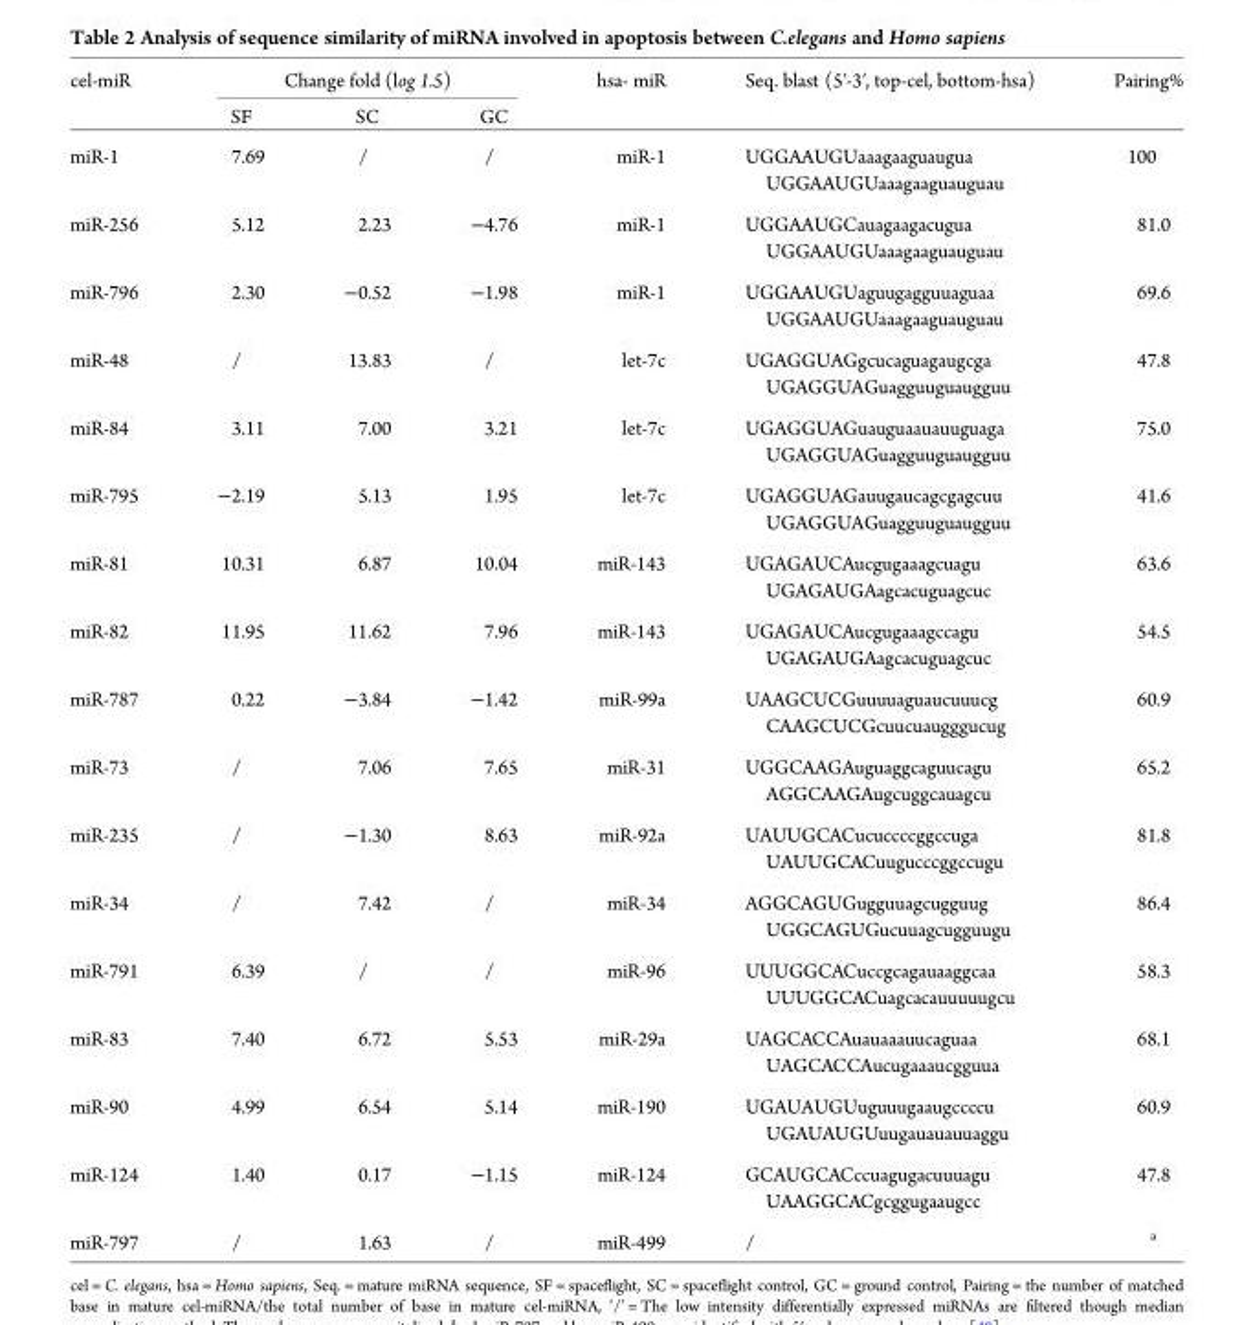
<table><thead><tr><td rowspan="2">cel-miR</td><td colspan="3">Change fold (log 1.5)</td><td rowspan="2">hsa- miR</td><td rowspan="2">Seq. blast (5′-3′, top-cel, bottom-hsa)</td><td rowspan="2">Pairing%</td></tr><tr><td>SF</td><td>SC</td><td>GC</td></tr></thead><tbody><tr><td>miR-1</td><td>7.69</td><td>/</td><td>/</td><td>miR-1</td><td>UGGAAUGUaaagaaguaugua UGGAAUGUaaagaaguauguau</td><td>100</td></tr><tr><td>miR-256</td><td>5.12</td><td>2.23</td><td>−4.76</td><td>miR-1</td><td>UGGAAUGCauagaagacugua UGGAAUGUaaagaaguauguau</td><td>81.0</td></tr><tr><td>miR-796</td><td>2.30</td><td>−0.52</td><td>−1.98</td><td>miR-1</td><td>UGGAAUGUaguugagguuaguaa UGGAAUGUaaagaaguauguau</td><td>69.6</td></tr><tr><td>miR-48</td><td>/</td><td>13.83</td><td>/</td><td>let-7c</td><td>UGAGGUAGgcucaguagaugcga UGAGGUAGuagguuguaugguu</td><td>47.8</td></tr><tr><td>miR-84</td><td>3.11</td><td>7.00</td><td>3.21</td><td>let-7c</td><td>UGAGGUAGuauguaauauuguaga UGAGGUAGuagguuguaugguu</td><td>75.0</td></tr><tr><td>miR-795</td><td>−2.19</td><td>5.13</td><td>1.95</td><td>let-7c</td><td>UGAGGUAGauugaucagcgagcuu UGAGGUAGuagguuguaugguu</td><td>41.6</td></tr><tr><td>miR-81</td><td>10.31</td><td>6.87</td><td>10.04</td><td>miR-143</td><td>UGAGAUCAucgugaaagcuagu UGAGAUGAagcacuguagcuc</td><td>63.6</td></tr><tr><td>miR-82</td><td>11.95</td><td>11.62</td><td>7.96</td><td>miR-143</td><td>UGAGAUCAucgugaaagccagu UGAGAUGAagcacuguagcuc</td><td>54.5</td></tr><tr><td>miR-787</td><td>0.22</td><td>−3.84</td><td>−1.42</td><td>miR-99a</td><td>UAAGCUCGuuuuaguaucuuucg CAAGCUCGcuucuaugggucug</td><td>60.9</td></tr><tr><td>miR-73</td><td>/</td><td>7.06</td><td>7.65</td><td>miR-31</td><td>UGGCAAGAuguaggcaguucagu AGGCAAGAugcuggcauagcu</td><td>65.2</td></tr><tr><td>miR-235</td><td>/</td><td>−1.30</td><td>8.63</td><td>miR-92a</td><td>UAUUGCACucuccccggccuga UAUUGCACuugucccggccugu</td><td>81.8</td></tr><tr><td>miR-34</td><td>/</td><td>7.42</td><td>/</td><td>miR-34</td><td>AGGCAGUGugguuagcugguug UGGCAGUGucuuagcugguugu</td><td>86.4</td></tr><tr><td>miR-791</td><td>6.39</td><td>/</td><td>/</td><td>miR-96</td><td>UUUGGCACuccgcagauaaggcaa UUUGGCACuagcacauuuuugcu</td><td>58.3</td></tr><tr><td>miR-83</td><td>7.40</td><td>6.72</td><td>5.53</td><td>miR-29a</td><td>UAGCACCAuauaaauucaguaa UAGCACCAucugaaaucgguua</td><td>68.1</td></tr><tr><td>miR-90</td><td>4.99</td><td>6.54</td><td>5.14</td><td>miR-190</td><td>UGAUAUGUuguuugaaugccccu UGAUAUGUuugauauauuaggu</td><td>60.9</td></tr><tr><td>miR-124</td><td>1.40</td><td>0.17</td><td>−1.15</td><td>miR-124</td><td>GCAUGCACccuagugacuuuagu UAAGGCACgcggugaaugcc</td><td>47.8</td></tr><tr><td>miR-797</td><td>/</td><td>1.63</td><td>/</td><td>miR-499</td><td>/</td><td><sup>a</sup></td></tr></tbody></table>